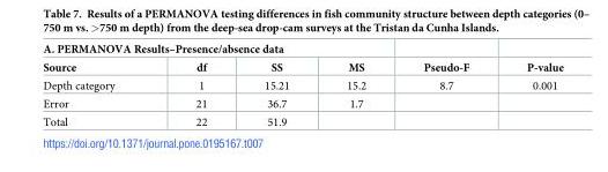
<table><thead><tr><td colspan="4">A. PERMANOVA Results–Presence/absence data</td><td rowspan="2">Pseudo-F</td><td rowspan="2">P-value</td></tr><tr><td>Source</td><td>df</td><td>SS</td><td>MS</td></tr></thead><tbody><tr><td>Depth category</td><td>1</td><td>15.21</td><td>15.2</td><td>8.7</td><td>0.001</td></tr><tr><td>Error</td><td>21</td><td>36.7</td><td>1.7</td><td></td><td></td></tr><tr><td>Total</td><td>22</td><td>51.9</td><td></td><td></td><td></td></tr></tbody></table>